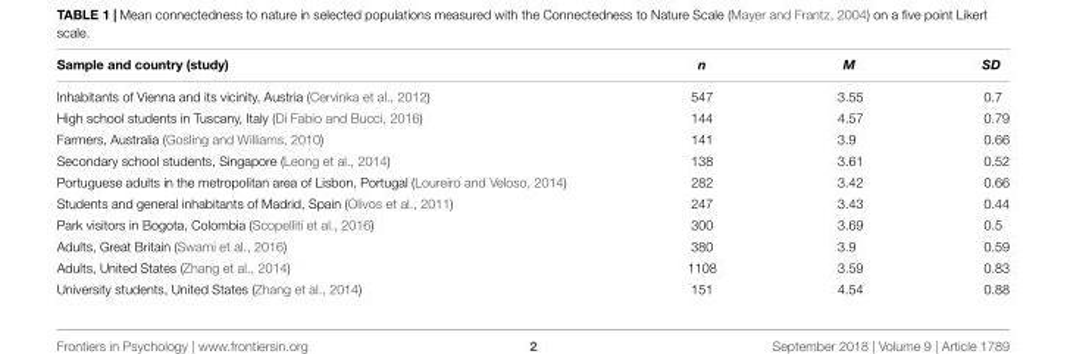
<table><thead><tr><td>Sample and country (study)</td><td>n</td><td>M</td><td>SD</td></tr></thead><tbody><tr><td>Inhabitants of Vienna and its vicinity, Austria (Cervinka et al., 2012)</td><td>547</td><td>3.55</td><td>0.7</td></tr><tr><td>High school students in Tuscany, Italy (Di Fabio and Bucci, 2016)</td><td>144</td><td>4.57</td><td>0.79</td></tr><tr><td>Farmers, Australia (Gosling and Williams, 2010)</td><td>141</td><td>3.9</td><td>0.66</td></tr><tr><td>Secondary school students, Singapore (Leong et al., 2014)</td><td>138</td><td>3.61</td><td>0.52</td></tr><tr><td>Portuguese adults in the metropolitan area of Lisbon, Portugal (Loureiro and Veloso, 2014)</td><td>282</td><td>3.42</td><td>0.66</td></tr><tr><td>Students and general inhabitants of Madrid, Spain (Olivos et al., 2011)</td><td>247</td><td>3.43</td><td>0.44</td></tr><tr><td>Park visitors in Bogota, Colombia (Scopelliti et al., 2016)</td><td>300</td><td>3.69</td><td>0.5</td></tr><tr><td>Adults, Great Britain (Swami et al., 2016)</td><td>380</td><td>3.9</td><td>0.59</td></tr><tr><td>Adults, United States (Zhang et al., 2014)</td><td>1108</td><td>3.59</td><td>0.83</td></tr><tr><td>University students, United States (Zhang et al., 2014)</td><td>151</td><td>4.54</td><td>0.88</td></tr></tbody></table>